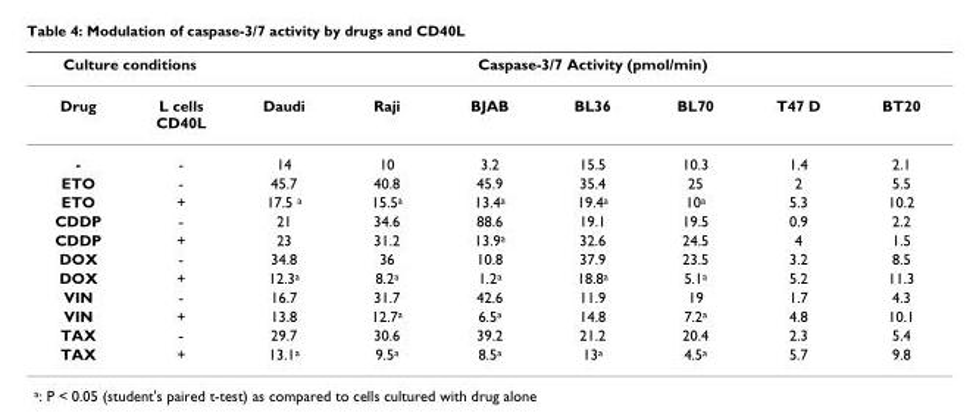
<table><thead><tr><td colspan="2">Culture conditions</td><td colspan="7">Caspase-3/7 Activity (pmol/min)</td></tr><tr><td>Drug</td><td>L cells CD40L</td><td>Daudi</td><td>Raji</td><td>BJAB</td><td>BL36</td><td>BL70</td><td>T47 D</td><td>BT20</td></tr></thead><tbody><tr><td>-</td><td>-</td><td>14</td><td>10</td><td>3.2</td><td>15.5</td><td>10.3</td><td>1.4</td><td>2.1</td></tr><tr><td>ETO</td><td>-</td><td>45.7</td><td>40.8</td><td>45.9</td><td>35.4</td><td>25</td><td>2</td><td>5.5</td></tr><tr><td>ETO</td><td>+</td><td>17.5 a</td><td>15.5a</td><td>13.4a</td><td>19.4a</td><td>10a</td><td>5.3</td><td>10.2</td></tr><tr><td>CDDP</td><td>-</td><td>21</td><td>34.6</td><td>88.6</td><td>19.1</td><td>19.5</td><td>0.9</td><td>2.2</td></tr><tr><td>CDDP</td><td>+</td><td>23</td><td>31.2</td><td>13.9a</td><td>32.6</td><td>24.5</td><td>4</td><td>1.5</td></tr><tr><td>DOX</td><td>-</td><td>34.8</td><td>36</td><td>10.8</td><td>37.9</td><td>23.5</td><td>3.2</td><td>8.5</td></tr><tr><td>DOX</td><td>+</td><td>12.3a</td><td>8.2a</td><td>1.2a</td><td>18.8a</td><td>5.1a</td><td>5.2</td><td>11.3</td></tr><tr><td>VIN</td><td>-</td><td>16.7</td><td>31.7</td><td>42.6</td><td>11.9</td><td>19</td><td>1.7</td><td>4.3</td></tr><tr><td>VIN</td><td>+</td><td>13.8</td><td>12.7a</td><td>6.5a</td><td>14.8</td><td>7.2a</td><td>4.8</td><td>10.1</td></tr><tr><td>TAX</td><td>-</td><td>29.7</td><td>30.6</td><td>39.2</td><td>21.2</td><td>20.4</td><td>2.3</td><td>5.4</td></tr><tr><td>TAX</td><td>+</td><td>13.1a</td><td>9.5a</td><td>8.5a</td><td>13a</td><td>4.5a</td><td>5.7</td><td>9.8</td></tr></tbody></table>